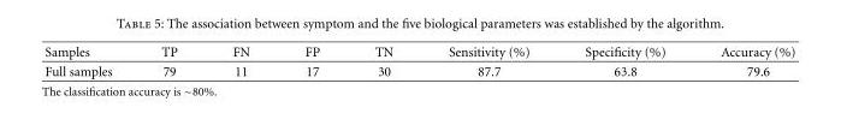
<table><thead><tr><td>Samples</td><td>TP</td><td>FN</td><td>FP</td><td>TN</td><td>Sensitivity (%)</td><td>Specificity (%)</td><td>Accuracy (%)</td></tr></thead><tbody><tr><td>Full samples</td><td>79</td><td>11</td><td>17</td><td>30</td><td>87.7</td><td>63.8</td><td>79.6</td></tr></tbody></table>